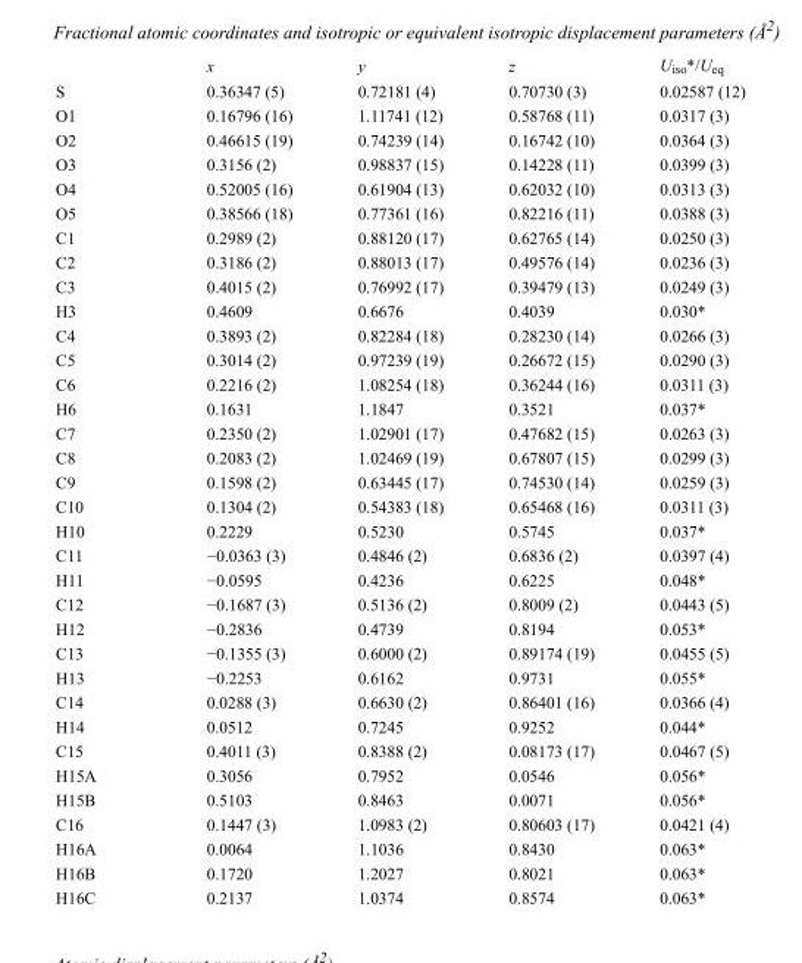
<table><thead><tr><td></td><td>x</td><td>y</td><td>z</td><td>U<sub>iso</sub>*/U<sub>eq</sub></td></tr></thead><tbody><tr><td>S</td><td>0.36347 (5)</td><td>0.72181 (4)</td><td>0.70730 (3)</td><td>0.02587 (12)</td></tr><tr><td>O1</td><td>0.16796 (16)</td><td>1.11741 (12)</td><td>0.58768 (11)</td><td>0.0317 (3)</td></tr><tr><td>O2</td><td>0.46615 (19)</td><td>0.74239 (14)</td><td>0.16742 (10)</td><td>0.0364 (3)</td></tr><tr><td>O3</td><td>0.3156 (2)</td><td>0.98837 (15)</td><td>0.14228 (11)</td><td>0.0399 (3)</td></tr><tr><td>O4</td><td>0.52005 (16)</td><td>0.61904 (13)</td><td>0.62032 (10)</td><td>0.0313 (3)</td></tr><tr><td>O5</td><td>0.38566 (18)</td><td>0.77361 (16)</td><td>0.82216 (11)</td><td>0.0388 (3)</td></tr><tr><td>C1</td><td>0.2989 (2)</td><td>0.88120 (17)</td><td>0.62765 (14)</td><td>0.0250 (3)</td></tr><tr><td>C2</td><td>0.3186 (2)</td><td>0.88013 (17)</td><td>0.49576 (14)</td><td>0.0236 (3)</td></tr><tr><td>C3</td><td>0.4015 (2)</td><td>0.76992 (17)</td><td>0.39479 (13)</td><td>0.0249 (3)</td></tr><tr><td>H3</td><td>0.4609</td><td>0.6676</td><td>0.4039</td><td>0.030*</td></tr><tr><td>C4</td><td>0.3893 (2)</td><td>0.82284 (18)</td><td>0.28230 (14)</td><td>0.0266 (3)</td></tr><tr><td>C5</td><td>0.3014 (2)</td><td>0.97239 (19)</td><td>0.26672 (15)</td><td>0.0290 (3)</td></tr><tr><td>C6</td><td>0.2216 (2)</td><td>1.08254 (18)</td><td>0.36244 (16)</td><td>0.0311 (3)</td></tr><tr><td>H6</td><td>0.1631</td><td>1.1847</td><td>0.3521</td><td>0.037*</td></tr><tr><td>C7</td><td>0.2350 (2)</td><td>1.02901 (17)</td><td>0.47682 (15)</td><td>0.0263 (3)</td></tr><tr><td>C8</td><td>0.2083 (2)</td><td>1.02469 (19)</td><td>0.67807 (15)</td><td>0.0299 (3)</td></tr><tr><td>C9</td><td>0.1598 (2)</td><td>0.63445 (17)</td><td>0.74530 (14)</td><td>0.0259 (3)</td></tr><tr><td>C10</td><td>0.1304 (2)</td><td>0.54383 (18)</td><td>0.65468 (16)</td><td>0.0311 (3)</td></tr><tr><td>H10</td><td>0.2229</td><td>0.5230</td><td>0.5745</td><td>0.037*</td></tr><tr><td>C11</td><td>−0.0363 (3)</td><td>0.4846 (2)</td><td>0.6836 (2)</td><td>0.0397 (4)</td></tr><tr><td>H11</td><td>−0.0595</td><td>0.4236</td><td>0.6225</td><td>0.048*</td></tr><tr><td>C12</td><td>−0.1687 (3)</td><td>0.5136 (2)</td><td>0.8009 (2)</td><td>0.0443 (5)</td></tr><tr><td>H12</td><td>−0.2836</td><td>0.4739</td><td>0.8194</td><td>0.053*</td></tr><tr><td>C13</td><td>−0.1355 (3)</td><td>0.6000 (2)</td><td>0.89174 (19)</td><td>0.0455 (5)</td></tr><tr><td>H13</td><td>−0.2253</td><td>0.6162</td><td>0.9731</td><td>0.055*</td></tr><tr><td>C14</td><td>0.0288 (3)</td><td>0.6630 (2)</td><td>0.86401 (16)</td><td>0.0366 (4)</td></tr><tr><td>H14</td><td>0.0512</td><td>0.7245</td><td>0.9252</td><td>0.044*</td></tr><tr><td>C15</td><td>0.4011 (3)</td><td>0.8388 (2)</td><td>0.08173 (17)</td><td>0.0467 (5)</td></tr><tr><td>H15A</td><td>0.3056</td><td>0.7952</td><td>0.0546</td><td>0.056*</td></tr><tr><td>H15B</td><td>0.5103</td><td>0.8463</td><td>0.0071</td><td>0.056*</td></tr><tr><td>C16</td><td>0.1447 (3)</td><td>1.0983 (2)</td><td>0.80603 (17)</td><td>0.0421 (4)</td></tr><tr><td>H16A</td><td>0.0064</td><td>1.1036</td><td>0.8430</td><td>0.063*</td></tr><tr><td>H16B</td><td>0.1720</td><td>1.2027</td><td>0.8021</td><td>0.063*</td></tr><tr><td>H16C</td><td>0.2137</td><td>1.0374</td><td>0.8574</td><td>0.063*</td></tr></tbody></table>